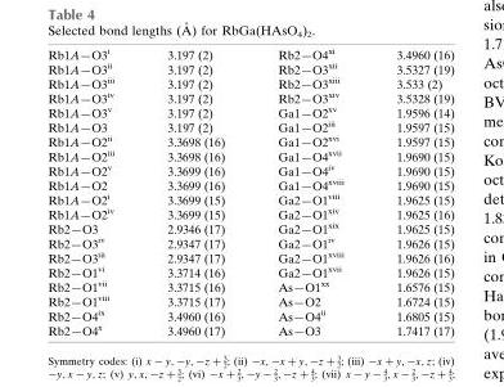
<table><tbody><tr><td>Rb1A—O3<sup>i</sup></td><td>3.197 (2)</td><td>Rb2—O4<sup>xi</sup></td><td>3.4960 (16)</td></tr><tr><td>Rb1A—O3<sup>ii</sup></td><td>3.197 (2)</td><td>Rb2—O3<sup>xii</sup></td><td>3.5327 (19)</td></tr><tr><td>Rb1A—O3<sup>iii</sup></td><td>3.197 (2)</td><td>Rb2—O3<sup>xiii</sup></td><td>3.533 (2)</td></tr><tr><td>Rb1A—O3<sup>iv</sup></td><td>3.197 (2)</td><td>Rb2—O3<sup>xiv</sup></td><td>3.5328 (19)</td></tr><tr><td>Rb1A—O3<sup>v</sup></td><td>3.197 (2)</td><td>Ga1—O2<sup>xv</sup></td><td>1.9596 (14)</td></tr><tr><td>Rb1A—O3</td><td>3.197 (2)</td><td>Ga1—O2<sup>iii</sup></td><td>1.9597 (15)</td></tr><tr><td>Rb1A—O2<sup>ii</sup></td><td>3.3698 (16)</td><td>Ga1—O2<sup>xvi</sup></td><td>1.9597 (15)</td></tr><tr><td>Rb1A—O2<sup>iii</sup></td><td>3.3698 (16)</td><td>Ga1—O4<sup>xvii</sup></td><td>1.9690 (15)</td></tr><tr><td>Rb1A—O2<sup>v</sup></td><td>3.3699 (16)</td><td>Ga1—O4<sup>iv</sup></td><td>1.9690 (15)</td></tr><tr><td>Rb1A—O2</td><td>3.3699 (16)</td><td>Ga1—O4<sup>xviii</sup></td><td>1.9690 (15)</td></tr><tr><td>Rb1A—O2<sup>i</sup></td><td>3.3699 (15)</td><td>Ga2—O1<sup>viii</sup></td><td>1.9625 (15)</td></tr><tr><td>Rb1A—O2<sup>iv</sup></td><td>3.3699 (15)</td><td>Ga2—O1<sup>xiv</sup></td><td>1.9625 (16)</td></tr><tr><td>Rb2—O3</td><td>2.9346 (17)</td><td>Ga2—O1<sup>xix</sup></td><td>1.9625 (15)</td></tr><tr><td>Rb2—O3<sup>iv</sup></td><td>2.9347 (17)</td><td>Ga2—O1<sup>iv</sup></td><td>1.9626 (15)</td></tr><tr><td>Rb2—O3<sup>iii</sup></td><td>2.9347 (17)</td><td>Ga2—O1<sup>xviii</sup></td><td>1.9626 (16)</td></tr><tr><td>Rb2—O1<sup>vi</sup></td><td>3.3714 (16)</td><td>Ga2—O1<sup>xvii</sup></td><td>1.9626 (15)</td></tr><tr><td>Rb2—O1<sup>vii</sup></td><td>3.3715 (16)</td><td>As—O1<sup>xx</sup></td><td>1.6576 (15)</td></tr><tr><td>Rb2—O1<sup>viii</sup></td><td>3.3715 (17)</td><td>As—O2</td><td>1.6724 (15)</td></tr><tr><td>Rb2—O4<sup>ix</sup></td><td>3.4960 (16)</td><td>As—O4<sup>ii</sup></td><td>1.6805 (15)</td></tr><tr><td>Rb2—O4<sup>x</sup></td><td>3.4960 (17)</td><td>As—O3</td><td>1.7417 (17)</td></tr></tbody></table>